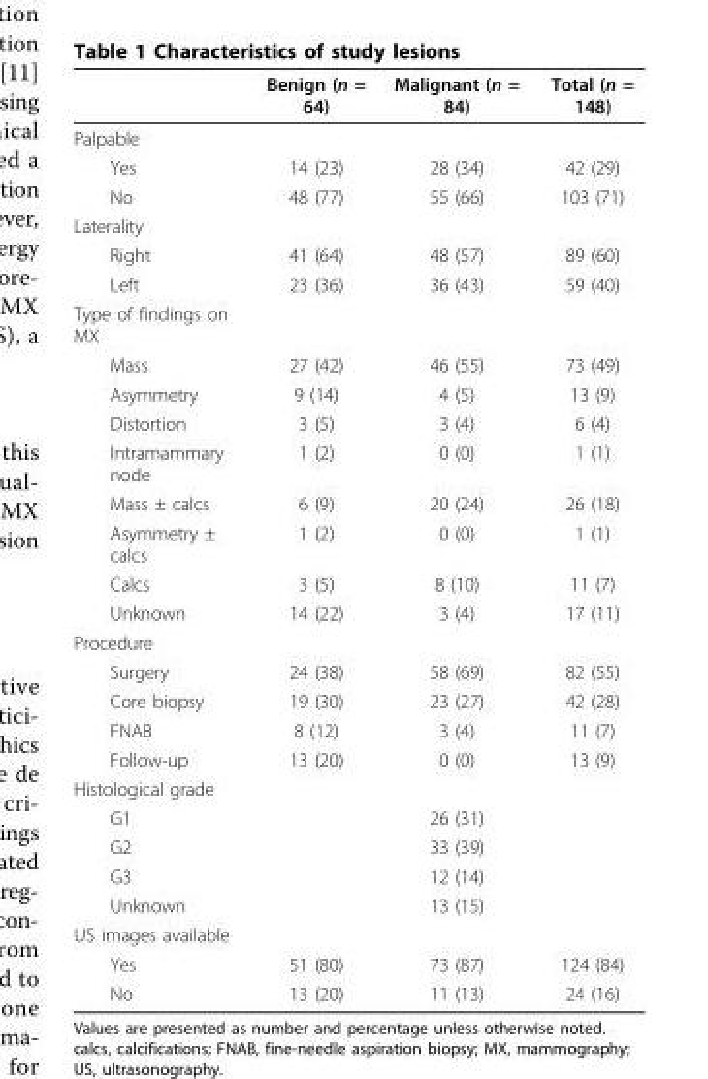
<table><thead><tr><td></td><td>Benign (n = 64)</td><td>Malignant (n = 84)</td><td>Total (n = 148)</td></tr></thead><tbody><tr><td colspan="4">Palpable</td></tr><tr><td>Yes</td><td>14 (23)</td><td>28 (34)</td><td>42 (29)</td></tr><tr><td>No</td><td>48 (77)</td><td>55 (66)</td><td>103 (71)</td></tr><tr><td colspan="4">Laterality</td></tr><tr><td>Right</td><td>41 (64)</td><td>48 (57)</td><td>89 (60)</td></tr><tr><td>Left</td><td>23 (36)</td><td>36 (43)</td><td>59 (40)</td></tr><tr><td colspan="4">Type of findings on MX</td></tr><tr><td>Mass</td><td>27 (42)</td><td>46 (55)</td><td>73 (49)</td></tr><tr><td>Asymmetry</td><td>9 (14)</td><td>4 (5)</td><td>13 (9)</td></tr><tr><td>Distortion</td><td>3 (5)</td><td>3 (4)</td><td>6 (4)</td></tr><tr><td>Intramammary node</td><td>1 (2)</td><td>0 (0)</td><td>1 (1)</td></tr><tr><td>Mass ± calcs</td><td>6 (9)</td><td>20 (24)</td><td>26 (18)</td></tr><tr><td>Asymmetry ± calcs</td><td>1 (2)</td><td>0 (0)</td><td>1 (1)</td></tr><tr><td>Calcs</td><td>3 (5)</td><td>8 (10)</td><td>11 (7)</td></tr><tr><td>Unknown</td><td>14 (22)</td><td>3 (4)</td><td>17 (11)</td></tr><tr><td colspan="4">Procedure</td></tr><tr><td>Surgery</td><td>24 (38)</td><td>58 (69)</td><td>82 (55)</td></tr><tr><td>Core biopsy</td><td>19 (30)</td><td>23 (27)</td><td>42 (28)</td></tr><tr><td>FNAB</td><td>8 (12)</td><td>3 (4)</td><td>11 (7)</td></tr><tr><td>Follow-up</td><td>13 (20)</td><td>0 (0)</td><td>13 (9)</td></tr><tr><td colspan="4">Histological grade</td></tr><tr><td>G1</td><td></td><td>26 (31)</td><td></td></tr><tr><td>G2</td><td></td><td>33 (39)</td><td></td></tr><tr><td>G3</td><td></td><td>12 (14)</td><td></td></tr><tr><td>Unknown</td><td></td><td>13 (15)</td><td></td></tr><tr><td colspan="4">US images available</td></tr><tr><td>Yes</td><td>51 (80)</td><td>73 (87)</td><td>124 (84)</td></tr><tr><td>No</td><td>13 (20)</td><td>11 (13)</td><td>24 (16)</td></tr></tbody></table>